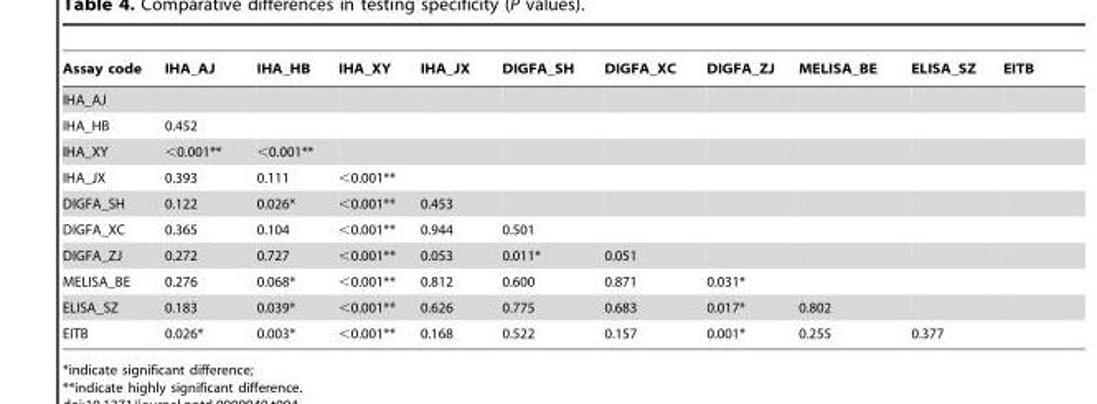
<table><thead><tr><td>Assay code</td><td>IHA_AJ</td><td>IHA_HB</td><td>IHA_XY</td><td>IHA_JX</td><td>DIGFA_SH</td><td>DIGFA_XC</td><td>DIGFA_ZJ</td><td>MELISA_BE</td><td>ELISA_SZ</td><td>EITB</td></tr></thead><tbody><tr><td colspan="11">IHA_AJ</td></tr><tr><td>IHA_HB</td><td>0.452</td><td></td><td></td><td></td><td></td><td></td><td></td><td></td><td></td><td></td></tr><tr><td>IHA_XY</td><td>&lt;0.001**</td><td>&lt;0.001**</td><td></td><td></td><td></td><td></td><td></td><td></td><td></td><td></td></tr><tr><td>IHA_JX</td><td>0.393</td><td>0.111</td><td>&lt;0.001**</td><td></td><td></td><td></td><td></td><td></td><td></td><td></td></tr><tr><td>DIGFA_SH</td><td>0.122</td><td>0.026*</td><td>&lt;0.001**</td><td>0.453</td><td></td><td></td><td></td><td></td><td></td><td></td></tr><tr><td>DIGFA_XC</td><td>0.365</td><td>0.104</td><td>&lt;0.001**</td><td>0.944</td><td>0.501</td><td></td><td></td><td></td><td></td><td></td></tr><tr><td>DIGFA_ZJ</td><td>0.272</td><td>0.727</td><td>&lt;0.001**</td><td>0.053</td><td>0.011*</td><td>0.051</td><td></td><td></td><td></td><td></td></tr><tr><td>MELISA_BE</td><td>0.276</td><td>0.068*</td><td>&lt;0.001**</td><td>0.812</td><td>0.600</td><td>0.871</td><td>0.031*</td><td></td><td></td><td></td></tr><tr><td>ELISA_SZ</td><td>0.183</td><td>0.039*</td><td>&lt;0.001**</td><td>0.626</td><td>0.775</td><td>0.683</td><td>0.017*</td><td>0.802</td><td></td><td></td></tr><tr><td>EITB</td><td>0.026*</td><td>0.003*</td><td>&lt;0.001**</td><td>0.168</td><td>0.522</td><td>0.157</td><td>0.001*</td><td>0.255</td><td>0.377</td><td></td></tr></tbody></table>